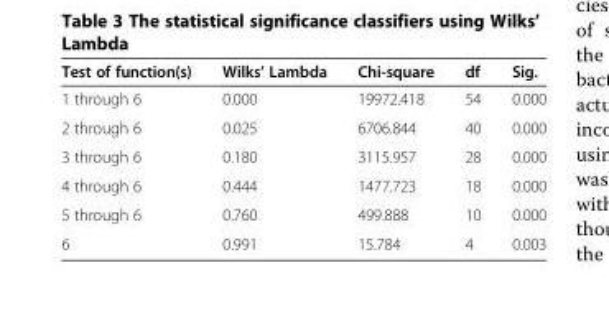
<table><thead><tr><td>Test of function(s)</td><td>Wilks’ Lambda</td><td>Chi-square</td><td>df</td><td>Sig.</td></tr></thead><tbody><tr><td>1 through 6</td><td>0.000</td><td>19972.418</td><td>54</td><td>0.000</td></tr><tr><td>2 through 6</td><td>0.025</td><td>6706.844</td><td>40</td><td>0.000</td></tr><tr><td>3 through 6</td><td>0.180</td><td>3115.957</td><td>28</td><td>0.000</td></tr><tr><td>4 through 6</td><td>0.444</td><td>1477.723</td><td>18</td><td>0.000</td></tr><tr><td>5 through 6</td><td>0.760</td><td>499.888</td><td>10</td><td>0.000</td></tr><tr><td>6</td><td>0.991</td><td>15.784</td><td>4</td><td>0.003</td></tr></tbody></table>